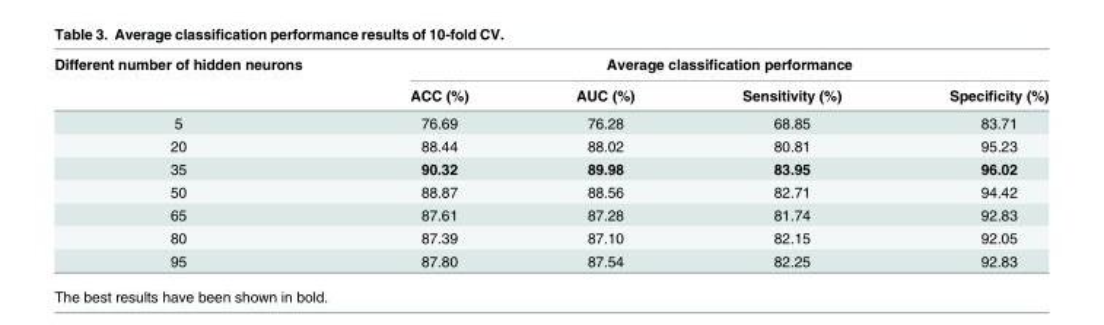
<table><thead><tr><td rowspan="2">Different number of hidden neurons</td><td colspan="4">Average classification performance</td></tr><tr><td>ACC (%)</td><td>AUC (%)</td><td>Sensitivity (%)</td><td>Specificity (%)</td></tr></thead><tbody><tr><td>5</td><td>76.69</td><td>76.28</td><td>68.85</td><td>83.71</td></tr><tr><td>20</td><td>88.44</td><td>88.02</td><td>80.81</td><td>95.23</td></tr><tr><td>35</td><td>90.32</td><td>89.98</td><td>83.95</td><td>96.02</td></tr><tr><td>50</td><td>88.87</td><td>88.56</td><td>82.71</td><td>94.42</td></tr><tr><td>65</td><td>87.61</td><td>87.28</td><td>81.74</td><td>92.83</td></tr><tr><td>80</td><td>87.39</td><td>87.10</td><td>82.15</td><td>92.05</td></tr><tr><td>95</td><td>87.80</td><td>87.54</td><td>82.25</td><td>92.83</td></tr></tbody></table>